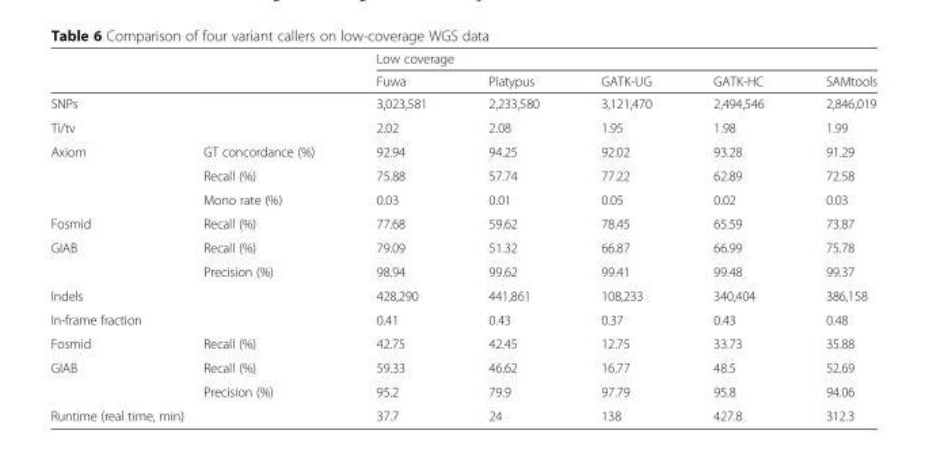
<table><thead><tr><td rowspan="2"></td><td rowspan="2"></td><td colspan="5">Low coverage</td></tr><tr><td>Fuwa</td><td>Platypus</td><td>GATK-UG</td><td>GATK-HC</td><td>SAMtools</td></tr></thead><tbody><tr><td colspan="2">SNPs</td><td>3,023,581</td><td>2,233,580</td><td>3,121,470</td><td>2,494,546</td><td>2,846,019</td></tr><tr><td>Ti/tv</td><td></td><td>2.02</td><td>2.08</td><td>1.95</td><td>1.98</td><td>1.99</td></tr><tr><td rowspan="3">Axiom</td><td>GT concordance (%)</td><td>92.94</td><td>94.25</td><td>92.02</td><td>93.28</td><td>91.29</td></tr><tr><td>Recall (%)</td><td>75.88</td><td>57.74</td><td>77.22</td><td>62.89</td><td>72.58</td></tr><tr><td>Mono rate (%)</td><td>0.03</td><td>0.01</td><td>0.05</td><td>0.02</td><td>0.03</td></tr><tr><td>Fosmid</td><td>Recall (%)</td><td>77.68</td><td>59.62</td><td>78.45</td><td>65.59</td><td>73.87</td></tr><tr><td rowspan="2">GIAB</td><td>Recall (%)</td><td>79.09</td><td>51.32</td><td>66.87</td><td>66.99</td><td>75.78</td></tr><tr><td>Precision (%)</td><td>98.94</td><td>99.62</td><td>99.41</td><td>99.48</td><td>99.37</td></tr><tr><td colspan="2">Indels</td><td>428,290</td><td>441,861</td><td>108,233</td><td>340,404</td><td>386,158</td></tr><tr><td>In-frame fraction</td><td></td><td>0.41</td><td>0.43</td><td>0.37</td><td>0.43</td><td>0.48</td></tr><tr><td>Fosmid</td><td>Recall (%)</td><td>42.75</td><td>42.45</td><td>12.75</td><td>33.73</td><td>35.88</td></tr><tr><td rowspan="2">GIAB</td><td>Recall (%)</td><td>59.33</td><td>46.62</td><td>16.77</td><td>48.5</td><td>52.69</td></tr><tr><td>Precision (%)</td><td>95.2</td><td>79.9</td><td>97.79</td><td>95.8</td><td>94.06</td></tr><tr><td colspan="2">Runtime (real time, min)</td><td>37.7</td><td>24</td><td>138</td><td>427.8</td><td>312.3</td></tr></tbody></table>